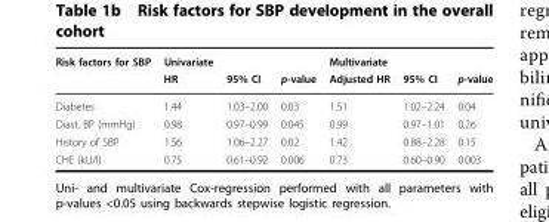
<table><thead><tr><td rowspan="2">Risk factors for SBP</td><td rowspan="2">Univariate HR</td><td rowspan="2">95% CI</td><td rowspan="2">p-value</td><td rowspan="2">Multivariate Adjusted HR</td><td rowspan="2">95% CI</td><td rowspan="2">p-value</td></tr><tr></tr></thead><tbody><tr><td>Diabetes</td><td>1.44</td><td>1.03–2.00</td><td>0.03</td><td>1.51</td><td>1.02–2.24</td><td>0.04</td></tr><tr><td>Diast. BP (mmHg)</td><td>0.98</td><td>0.97–0.99</td><td>0.045</td><td>0.99</td><td>0.97–1.01</td><td>0.26</td></tr><tr><td>History of SBP</td><td>1.56</td><td>1.06–2.27</td><td>0.02</td><td>1.42</td><td>0.88–2.28</td><td>0.15</td></tr><tr><td>CHE (kU/l)</td><td>0.75</td><td>0.61–0.92</td><td>0.006</td><td>0.73</td><td>0.60–0.90</td><td>0.003</td></tr></tbody></table>